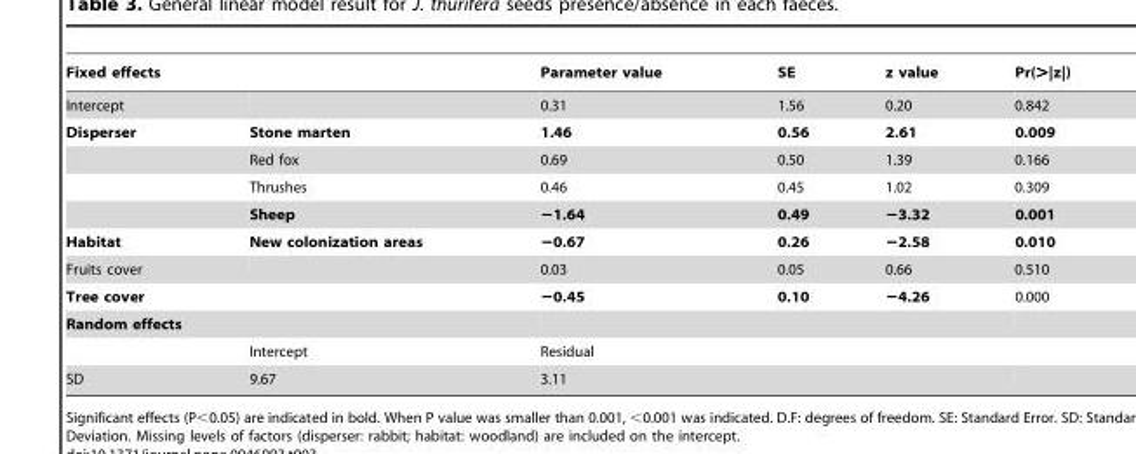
<table><thead><tr><td>Fixed effects</td><td></td><td>Parameter value</td><td>SE</td><td>z value</td><td>Pr(&gt;|z|)</td></tr></thead><tbody><tr><td>Intercept</td><td></td><td>0.31</td><td>1.56</td><td>0.20</td><td>0.842</td></tr><tr><td rowspan="4">Disperser</td><td>Stone marten</td><td>1.46</td><td>0.56</td><td>2.61</td><td>0.009</td></tr><tr><td>Red fox</td><td>0.69</td><td>0.50</td><td>1.39</td><td>0.166</td></tr><tr><td>Thrushes</td><td>0.46</td><td>0.45</td><td>1.02</td><td>0.309</td></tr><tr><td>Sheep</td><td>−1.64</td><td>0.49</td><td>−3.32</td><td>0.001</td></tr><tr><td>Habitat</td><td>New colonization areas</td><td>−0.67</td><td>0.26</td><td>−2.58</td><td>0.010</td></tr><tr><td>Fruits cover</td><td></td><td>0.03</td><td>0.05</td><td>0.66</td><td>0.510</td></tr><tr><td>Tree cover</td><td></td><td>−0.45</td><td>0.10</td><td>−4.26</td><td>0.000</td></tr><tr><td colspan="6">Random effects</td></tr><tr><td></td><td>Intercept</td><td>Residual</td><td></td><td></td><td></td></tr><tr><td>SD</td><td>9.67</td><td>3.11</td><td></td><td></td><td></td></tr></tbody></table>